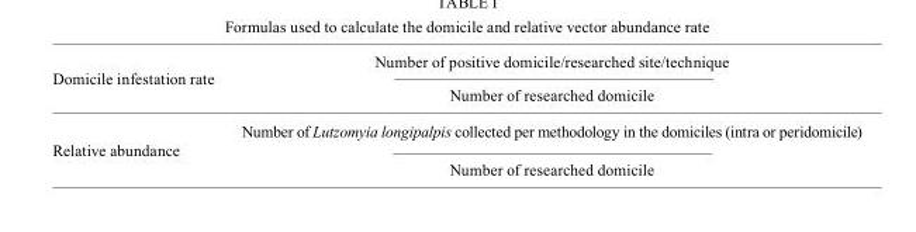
<table><tbody><tr><td rowspan="2">Domicile infestation rate</td><td>Number of positive domicile/researched site/technique</td></tr><tr><td>Number of researched domicile</td></tr><tr><td rowspan="2">Relative abundance</td><td>Number of Lutzomyia longipalpis collected per methodology in the domiciles (intra or peridomicile)</td></tr><tr><td>Number of researched domicile</td></tr></tbody></table>